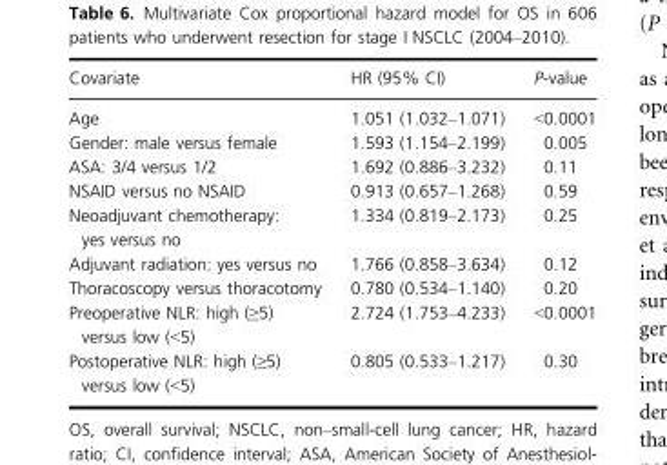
<table><thead><tr><td>Covariate</td><td>HR (95% CI)</td><td>P-value</td></tr></thead><tbody><tr><td>Age</td><td>1.051 (1.032–1.071)</td><td>&lt;0.0001</td></tr><tr><td>Gender: male versus female</td><td>1.593 (1.154–2.199)</td><td>0.005</td></tr><tr><td>ASA: 3/4 versus 1/2</td><td>1.692 (0.886–3.232)</td><td>0.11</td></tr><tr><td>NSAID versus no NSAID</td><td>0.913 (0.657–1.268)</td><td>0.59</td></tr><tr><td>Neoadjuvant chemotherapy: yes versus no</td><td>1.334 (0.819–2.173)</td><td>0.25</td></tr><tr><td>Adjuvant radiation: yes versus no</td><td>1.766 (0.858–3.634)</td><td>0.12</td></tr><tr><td>Thoracoscopy versus thoracotomy</td><td>0.780 (0.534–1.140)</td><td>0.20</td></tr><tr><td>Preoperative NLR: high (≥5) versus low (&lt;5)</td><td>2.724 (1.753–4.233)</td><td>&lt;0.0001</td></tr><tr><td>Postoperative NLR: high (≥5) versus low (&lt;5)</td><td>0.805 (0.533–1.217)</td><td>0.30</td></tr></tbody></table>